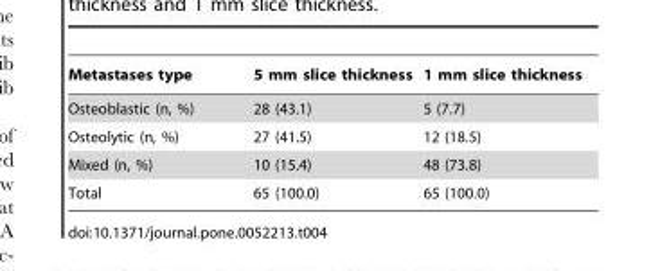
<table><thead><tr><td>Metastases type</td><td>5 mm slice thickness</td><td>1 mm slice thickness</td></tr></thead><tbody><tr><td>Osteoblastic (n, %)</td><td>28 (43.1)</td><td>5 (7.7)</td></tr><tr><td>Osteolytic (n, %)</td><td>27 (41.5)</td><td>12 (18.5)</td></tr><tr><td>Mixed (n, %)</td><td>10 (15.4)</td><td>48 (73.8)</td></tr><tr><td>Total</td><td>65 (100.0)</td><td>65 (100.0)</td></tr></tbody></table>